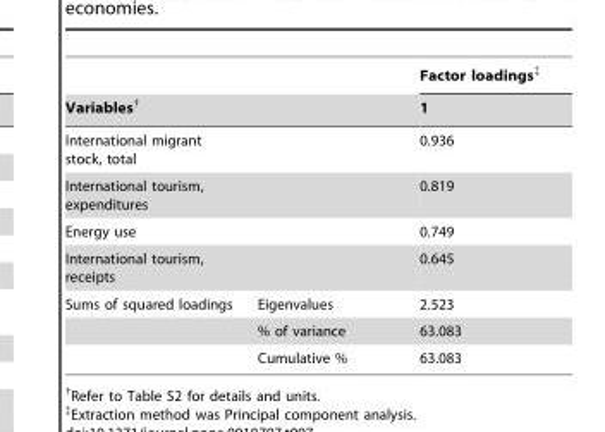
<table><thead><tr><td></td><td></td><td rowspan="2">Factor loadings‡ 1</td></tr><tr><td colspan="2">Variables†</td></tr></thead><tbody><tr><td colspan="2">International migrant stock, total</td><td>0.936</td></tr><tr><td colspan="2">International tourism, expenditures</td><td>0.819</td></tr><tr><td colspan="2">Energy use</td><td>0.749</td></tr><tr><td colspan="2">International tourism, receipts</td><td>0.645</td></tr><tr><td rowspan="3">Sums of squared loadings</td><td>Eigenvalues</td><td>2.523</td></tr><tr><td>% of variance</td><td>63.083</td></tr><tr><td>Cumulative %</td><td>63.083</td></tr></tbody></table>